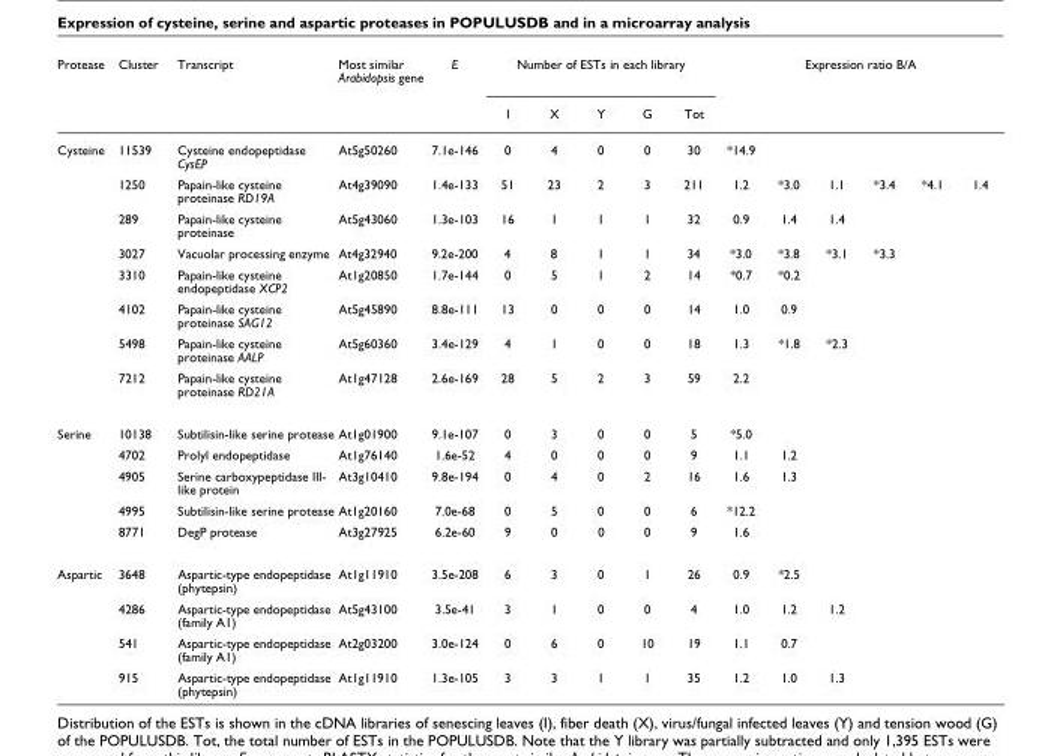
<table><thead><tr><td rowspan="2">Protease</td><td rowspan="2">Cluster</td><td rowspan="2">Transcript</td><td rowspan="2">Most similar Arabidopsis gene</td><td rowspan="2">E</td><td colspan="5">Number of ESTs in each library</td><td colspan="6">Expression ratio B/A</td></tr><tr><td>I</td><td>X</td><td>Y</td><td>G</td><td>Tot</td><td></td><td></td><td></td><td></td><td></td><td></td></tr></thead><tbody><tr><td rowspan="8">Cysteine</td><td>11539</td><td>Cysteine endopeptidase CysEP</td><td>At5g50260</td><td>7.1e-146</td><td>0</td><td>4</td><td>0</td><td>0</td><td>30</td><td>*14.9</td><td></td><td></td><td></td><td></td><td></td></tr><tr><td>1250</td><td>Papain-like cysteine proteinase RD19A</td><td>At4g39090</td><td>1.4e-133</td><td>51</td><td>23</td><td>2</td><td>3</td><td>211</td><td>1.2</td><td>*3.0</td><td>1.1</td><td>*3.4</td><td>*4.1</td><td>1.4</td></tr><tr><td>289</td><td>Papain-like cysteine proteinase</td><td>At5g43060</td><td>1.3e-103</td><td>16</td><td>1</td><td>1</td><td>1</td><td>32</td><td>0.9</td><td>1.4</td><td>1.4</td><td></td><td></td><td></td></tr><tr><td>3027</td><td>Vacuolar processing enzyme</td><td>At4g32940</td><td>9.2e-200</td><td>4</td><td>8</td><td>1</td><td>1</td><td>34</td><td>*3.0</td><td>*3.8</td><td>*3.1</td><td>*3.3</td><td></td><td></td></tr><tr><td>3310</td><td>Papain-like cysteine endopeptidase XCP2</td><td>At1g20850</td><td>1.7e-144</td><td>0</td><td>5</td><td>1</td><td>2</td><td>14</td><td>*0.7</td><td>*0.2</td><td></td><td></td><td></td><td></td></tr><tr><td>4102</td><td>Papain-like cysteine proteinase SAG12</td><td>At5g45890</td><td>8.8e-111</td><td>13</td><td>0</td><td>0</td><td>0</td><td>14</td><td>1.0</td><td>0.9</td><td></td><td></td><td></td><td></td></tr><tr><td>5498</td><td>Papain-like cysteine proteinase AALP</td><td>At5g60360</td><td>3.4e-129</td><td>4</td><td>1</td><td>0</td><td>0</td><td>18</td><td>1.3</td><td>*1.8</td><td>*2.3</td><td></td><td></td><td></td></tr><tr><td>7212</td><td>Papain-like cysteine proteinase RD21A</td><td>At1g47128</td><td>2.6e-169</td><td>28</td><td>5</td><td>2</td><td>3</td><td>59</td><td>2.2</td><td></td><td></td><td></td><td></td><td></td></tr><tr><td rowspan="5">Serine</td><td>10138</td><td>Subtilisin-like serine protease</td><td>At1g01900</td><td>9.1e-107</td><td>0</td><td>3</td><td>0</td><td>0</td><td>5</td><td>*5.0</td><td></td><td></td><td></td><td></td><td></td></tr><tr><td>4702</td><td>Prolyl endopeptidase</td><td>At1g76140</td><td>1.6e-52</td><td>4</td><td>0</td><td>0</td><td>0</td><td>9</td><td>1.1</td><td>1.2</td><td></td><td></td><td></td><td></td></tr><tr><td>4905</td><td>Serine carboxypeptidase III- like protein</td><td>At3g10410</td><td>9.8e-194</td><td>0</td><td>4</td><td>0</td><td>2</td><td>16</td><td>1.6</td><td>1.3</td><td></td><td></td><td></td><td></td></tr><tr><td>4995</td><td>Subtilisin-like serine protease</td><td>At1g20160</td><td>7.0e-68</td><td>0</td><td>5</td><td>0</td><td>0</td><td>6</td><td>*12.2</td><td></td><td></td><td></td><td></td><td></td></tr><tr><td>8771</td><td>DegP protease</td><td>At3g27925</td><td>6.2e-60</td><td>9</td><td>0</td><td>0</td><td>0</td><td>9</td><td>1.6</td><td></td><td></td><td></td><td></td><td></td></tr><tr><td rowspan="4">Aspartic</td><td>3648</td><td>Aspartic-type endopeptidase (phytepsin)</td><td>At1g11910</td><td>3.5e-208</td><td>6</td><td>3</td><td>0</td><td>1</td><td>26</td><td>0.9</td><td>*2.5</td><td></td><td></td><td></td><td></td></tr><tr><td>4286</td><td>Aspartic-type endopeptidase (family A1)</td><td>At5g43100</td><td>3.5e-41</td><td>3</td><td>1</td><td>0</td><td>0</td><td>4</td><td>1.0</td><td>1.2</td><td>1.2</td><td></td><td></td><td></td></tr><tr><td>541</td><td>Aspartic-type endopeptidase (family A1)</td><td>At2g03200</td><td>3.0e-124</td><td>0</td><td>6</td><td>0</td><td>10</td><td>19</td><td>1.1</td><td>0.7</td><td></td><td></td><td></td><td></td></tr><tr><td>915</td><td>Aspartic-type endopeptidase (phytepsin)</td><td>At1g11910</td><td>1.3e-105</td><td>3</td><td>3</td><td>1</td><td>1</td><td>35</td><td>1.2</td><td>1.0</td><td>1.3</td><td></td><td></td><td></td></tr></tbody></table>